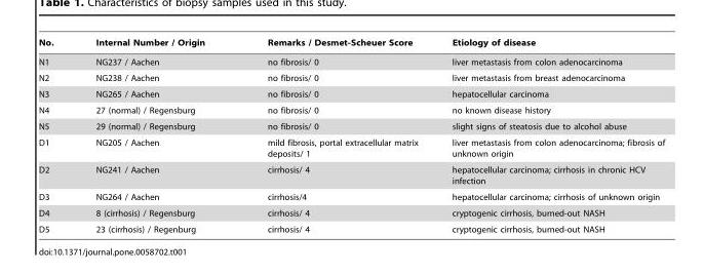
<table><thead><tr><td>No.</td><td>Internal Number / Origin</td><td>Remarks / Desmet-Scheuer Score</td><td>Etiology of disease</td></tr></thead><tbody><tr><td>N1</td><td>NG237 / Aachen</td><td>no fibrosis/ 0</td><td>liver metastasis from colon adenocarcinoma</td></tr><tr><td>N2</td><td>NG238 / Aachen</td><td>no fibrosis/ 0</td><td>liver metastasis from breast adenocarcinoma</td></tr><tr><td>N3</td><td>NG265 / Aachen</td><td>no fibrosis/ 0</td><td>hepatocellular carcinoma</td></tr><tr><td>N4</td><td>27 (normal) / Regensburg</td><td>no fibrosis/ 0</td><td>no known disease history</td></tr><tr><td>N5</td><td>29 (normal) / Regensburg</td><td>no fibrosis/ 0</td><td>slight signs of steatosis due to alcohol abuse</td></tr><tr><td>D1</td><td>NG205 / Aachen</td><td>mild fibrosis, portal extracellular matrix deposits/ 1</td><td>liver metastasis from colon adenocarcinoma; fibrosis of unknown origin</td></tr><tr><td>D2</td><td>NG241 / Aachen</td><td>cirrhosis/ 4</td><td>hepatocellular carcinoma; cirrhosis in chronic HCV infection</td></tr><tr><td>D3</td><td>NG264 / Aachen</td><td>cirrhosis/4</td><td>hepatocellular carcinoma; cirrhosis of unknown origin</td></tr><tr><td>D4</td><td>8 (cirrhosis) / Regensburg</td><td>cirrhosis/ 4</td><td>cryptogenic cirrhosis, burned-out NASH</td></tr><tr><td>D5</td><td>23 (cirrhosis) / Regenburg</td><td>cirrhosis/ 4</td><td>cryptogenic cirrhosis, burned-out NASH</td></tr></tbody></table>